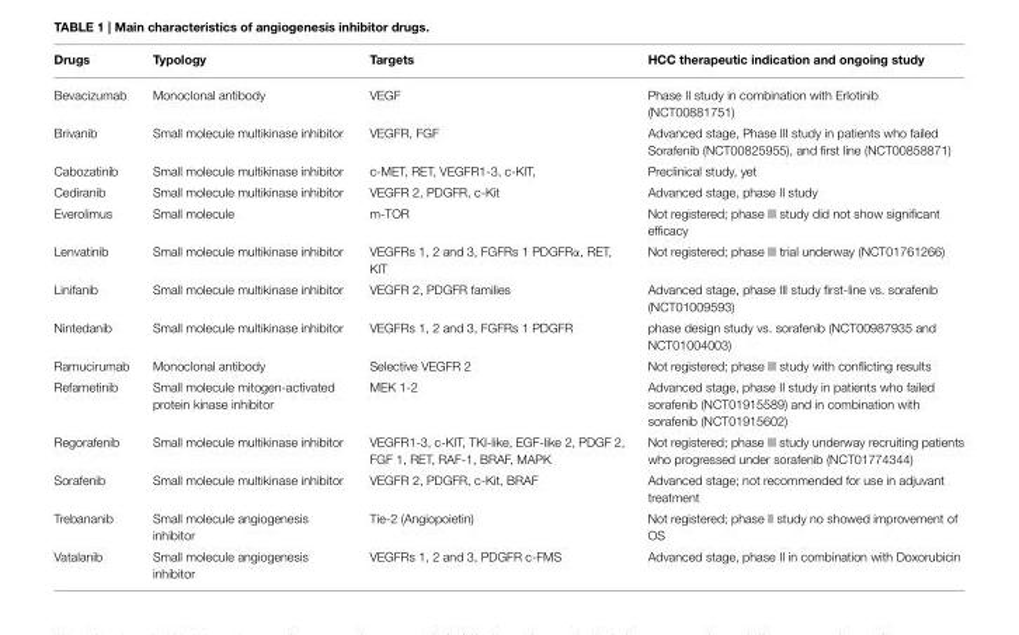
<table><thead><tr><td>Drugs</td><td>Typology</td><td>Targets</td><td>HCC therapeutic indication and ongoing study</td></tr></thead><tbody><tr><td>Bevacizumab</td><td>Monoclonal antibody</td><td>VEGF</td><td>Phase II study in combination with Erlotinib (NCT00881751)</td></tr><tr><td>Brivanib</td><td>Small molecule multikinase inhibitor</td><td>VEGFR, FGF</td><td>Advanced stage, Phase III study in patients who failed Sorafenib (NCT00825955), and first line (NCT00858871)</td></tr><tr><td>Cabozatinib</td><td>Small molecule multikinase inhibitor</td><td>c-MET, RET, VEGFR1-3, c-KIT,</td><td>Preclinical study, yet</td></tr><tr><td>Cediranib</td><td>Small molecule multikinase inhibitor</td><td>VEGFR 2, PDGFR, c-Kit</td><td>Advanced stage, phase II study</td></tr><tr><td>Everolimus</td><td>Small molecule</td><td>m-TOR</td><td>Not registered; phase III study did not show significant efficacy</td></tr><tr><td>Lenvatinib</td><td>Small molecule multikinase inhibitor</td><td>VEGFRs 1, 2 and 3, FGFRs 1 PDGFRα, RET, KIT</td><td>Not registered; phase III trial underway (NCT01761266)</td></tr><tr><td>Linifanib</td><td>Small molecule multikinase inhibitor</td><td>VEGFR 2, PDGFR families</td><td>Advanced stage, phase III study first-line vs. sorafenib (NCT01009593)</td></tr><tr><td>Nintedanib</td><td>Small molecule multikinase inhibitor</td><td>VEGFRs 1, 2 and 3, FGFRs 1 PDGFR</td><td>phase design study vs. sorafenib (NCT00987935 and NCT01004003)</td></tr><tr><td>Ramucirumab</td><td>Monoclonal antibody</td><td>Selective VEGFR 2</td><td>Not registered; phase III study with conflicting results</td></tr><tr><td>Refametinib</td><td>Small molecule mitogen-activated protein kinase inhibitor</td><td>MEK 1-2</td><td>Advanced stage, phase II study in patients who failed sorafenib (NCT01915589) and in combination with sorafenib (NCT01915602)</td></tr><tr><td>Regorafenib</td><td>Small molecule multikinase inhibitor</td><td>VEGFR1-3, c-KIT, TKI-like, EGF-like 2, PDGF 2, FGF 1, RET, RAF-1, BRAF, MAPK</td><td>Not registered; phase III study underway recruiting patients who progressed under sorafenib (NCT01774344)</td></tr><tr><td>Sorafenib</td><td>Small molecule multikinase inhibitor</td><td>VEGFR 2, PDGFR, c-Kit, BRAF</td><td>Advanced stage; not recommended for use in adjuvant treatment</td></tr><tr><td>Trebananib</td><td>Small molecule angiogenesis inhibitor</td><td>Tie-2 (Angiopoietin)</td><td>Not registered; phase II study no showed improvement of OS</td></tr><tr><td>Vatalanib</td><td>Small molecule angiogenesis inhibitor</td><td>VEGFRs 1, 2 and 3, PDGFR c-FMS</td><td>Advanced stage, phase II in combination with Doxorubicin</td></tr></tbody></table>